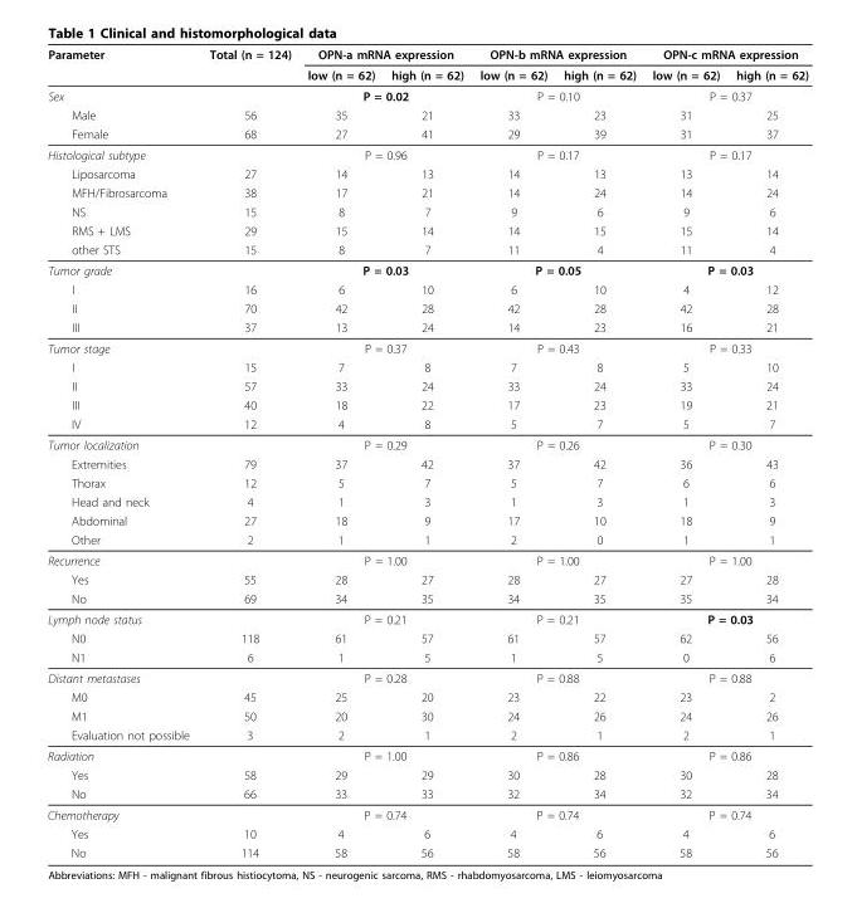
<table><thead><tr><td rowspan="2">Parameter</td><td rowspan="2">Total (n = 124)</td><td colspan="2">OPN-a mRNA expression</td><td colspan="2">OPN-b mRNA expression</td><td colspan="2">OPN-c mRNA expression</td></tr><tr><td>low (n = 62)</td><td>high (n = 62)</td><td>low (n = 62)</td><td>high (n = 62)</td><td>low (n = 62)</td><td>high (n = 62)</td></tr></thead><tbody><tr><td>Sex</td><td></td><td colspan="2">P = 0.02</td><td colspan="2">P = 0.10</td><td colspan="2">P = 0.37</td></tr><tr><td>Male</td><td>56</td><td>35</td><td>21</td><td>33</td><td>23</td><td>31</td><td>25</td></tr><tr><td>Female</td><td>68</td><td>27</td><td>41</td><td>29</td><td>39</td><td>31</td><td>37</td></tr><tr><td>Histological subtype</td><td></td><td colspan="2">P = 0.96</td><td colspan="2">P = 0.17</td><td colspan="2">P = 0.17</td></tr><tr><td>Liposarcoma</td><td>27</td><td>14</td><td>13</td><td>14</td><td>13</td><td>13</td><td>14</td></tr><tr><td>MFH/Fibrosarcoma</td><td>38</td><td>17</td><td>21</td><td>14</td><td>24</td><td>14</td><td>24</td></tr><tr><td>NS</td><td>15</td><td>8</td><td>7</td><td>9</td><td>6</td><td>9</td><td>6</td></tr><tr><td>RMS + LMS</td><td>29</td><td>15</td><td>14</td><td>14</td><td>15</td><td>15</td><td>14</td></tr><tr><td>other STS</td><td>15</td><td>8</td><td>7</td><td>11</td><td>4</td><td>11</td><td>4</td></tr><tr><td>Tumor grade</td><td></td><td colspan="2">P = 0.03</td><td colspan="2">P = 0.05</td><td colspan="2">P = 0.03</td></tr><tr><td>I</td><td>16</td><td>6</td><td>10</td><td>6</td><td>10</td><td>4</td><td>12</td></tr><tr><td>II</td><td>70</td><td>42</td><td>28</td><td>42</td><td>28</td><td>42</td><td>28</td></tr><tr><td>III</td><td>37</td><td>13</td><td>24</td><td>14</td><td>23</td><td>16</td><td>21</td></tr><tr><td>Tumor stage</td><td></td><td colspan="2">P = 0.37</td><td colspan="2">P = 0.43</td><td colspan="2">P = 0.33</td></tr><tr><td>I</td><td>15</td><td>7</td><td>8</td><td>7</td><td>8</td><td>5</td><td>10</td></tr><tr><td>II</td><td>57</td><td>33</td><td>24</td><td>33</td><td>24</td><td>33</td><td>24</td></tr><tr><td>III</td><td>40</td><td>18</td><td>22</td><td>17</td><td>23</td><td>19</td><td>21</td></tr><tr><td>IV</td><td>12</td><td>4</td><td>8</td><td>5</td><td>7</td><td>5</td><td>7</td></tr><tr><td>Tumor localization</td><td></td><td colspan="2">P = 0.29</td><td colspan="2">P = 0.26</td><td colspan="2">P = 0.30</td></tr><tr><td>Extremities</td><td>79</td><td>37</td><td>42</td><td>37</td><td>42</td><td>36</td><td>43</td></tr><tr><td>Thorax</td><td>12</td><td>5</td><td>7</td><td>5</td><td>7</td><td>6</td><td>6</td></tr><tr><td>Head and neck</td><td>4</td><td>1</td><td>3</td><td>1</td><td>3</td><td>1</td><td>3</td></tr><tr><td>Abdominal</td><td>27</td><td>18</td><td>9</td><td>17</td><td>10</td><td>18</td><td>9</td></tr><tr><td>Other</td><td>2</td><td>1</td><td>1</td><td>2</td><td>0</td><td>1</td><td>1</td></tr><tr><td>Recurrence</td><td></td><td colspan="2">P = 1.00</td><td colspan="2">P = 1.00</td><td colspan="2">P = 1.00</td></tr><tr><td>Yes</td><td>55</td><td>28</td><td>27</td><td>28</td><td>27</td><td>27</td><td>28</td></tr><tr><td>No</td><td>69</td><td>34</td><td>35</td><td>34</td><td>35</td><td>35</td><td>34</td></tr><tr><td>Lymph node status</td><td></td><td colspan="2">P = 0.21</td><td colspan="2">P = 0.21</td><td colspan="2">P = 0.03</td></tr><tr><td>N0</td><td>118</td><td>61</td><td>57</td><td>61</td><td>57</td><td>62</td><td>56</td></tr><tr><td>N1</td><td>6</td><td>1</td><td>5</td><td>1</td><td>5</td><td>0</td><td>6</td></tr><tr><td>Distant metastases</td><td></td><td colspan="2">P = 0.28</td><td colspan="2">P = 0.88</td><td colspan="2">P = 0.88</td></tr><tr><td>M0</td><td>45</td><td>25</td><td>20</td><td>23</td><td>22</td><td>23</td><td>2</td></tr><tr><td>M1</td><td>50</td><td>20</td><td>30</td><td>24</td><td>26</td><td>24</td><td>26</td></tr><tr><td>Evaluation not possible</td><td>3</td><td>2</td><td>1</td><td>2</td><td>1</td><td>2</td><td>1</td></tr><tr><td>Radiation</td><td></td><td colspan="2">P = 1.00</td><td colspan="2">P = 0.86</td><td colspan="2">P = 0.86</td></tr><tr><td>Yes</td><td>58</td><td>29</td><td>29</td><td>30</td><td>28</td><td>30</td><td>28</td></tr><tr><td>No</td><td>66</td><td>33</td><td>33</td><td>32</td><td>34</td><td>32</td><td>34</td></tr><tr><td>Chemotherapy</td><td></td><td colspan="2">P = 0.74</td><td colspan="2">P = 0.74</td><td colspan="2">P = 0.74</td></tr><tr><td>Yes</td><td>10</td><td>4</td><td>6</td><td>4</td><td>6</td><td>4</td><td>6</td></tr><tr><td>No</td><td>114</td><td>58</td><td>56</td><td>58</td><td>56</td><td>58</td><td>56</td></tr></tbody></table>